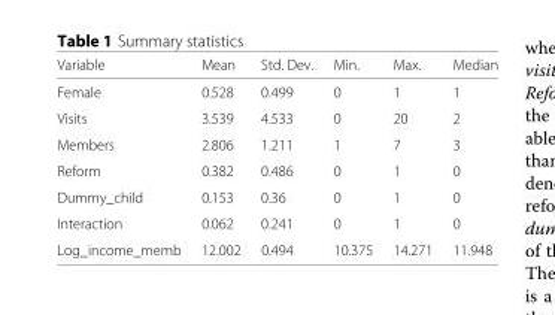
<table><thead><tr><td>Variable</td><td>Mean</td><td>Std. Dev.</td><td>Min.</td><td>Max.</td><td>Median</td></tr></thead><tbody><tr><td>Female</td><td>0.528</td><td>0.499</td><td>0</td><td>1</td><td>1</td></tr><tr><td>Visits</td><td>3.539</td><td>4.533</td><td>0</td><td>20</td><td>2</td></tr><tr><td>Members</td><td>2.806</td><td>1.211</td><td>1</td><td>7</td><td>3</td></tr><tr><td>Reform</td><td>0.382</td><td>0.486</td><td>0</td><td>1</td><td>0</td></tr><tr><td>Dummy_child</td><td>0.153</td><td>0.36</td><td>0</td><td>1</td><td>0</td></tr><tr><td>Interaction</td><td>0.062</td><td>0.241</td><td>0</td><td>1</td><td>0</td></tr><tr><td>Log_income_memb</td><td>12.002</td><td>0.494</td><td>10.375</td><td>14.271</td><td>11.948</td></tr></tbody></table>